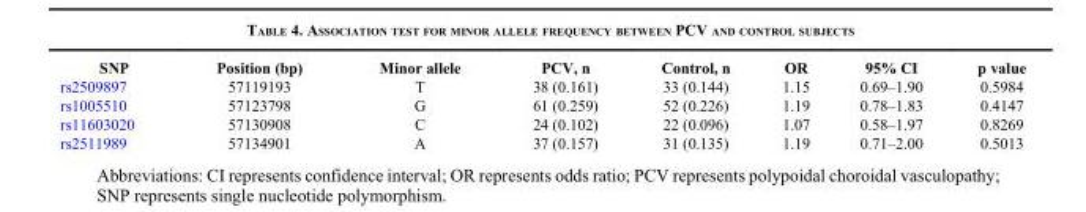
<table><thead><tr><td>SNP</td><td>Position (bp)</td><td>Minor allele</td><td>PCV, n</td><td>Control, n</td><td>OR</td><td>95% CI</td><td>p value</td></tr></thead><tbody><tr><td>rs2509897</td><td>57119193</td><td>T</td><td>38 (0.161)</td><td>33 (0.144)</td><td>1.15</td><td>0.69–1.90</td><td>0.5984</td></tr><tr><td>rs1005510</td><td>57123798</td><td>G</td><td>61 (0.259)</td><td>52 (0.226)</td><td>1.19</td><td>0.78–1.83</td><td>0.4147</td></tr><tr><td>rs11603020</td><td>57130908</td><td>C</td><td>24 (0.102)</td><td>22 (0.096)</td><td>1.07</td><td>0.58–1.97</td><td>0.8269</td></tr><tr><td>rs2511989</td><td>57134901</td><td>A</td><td>37 (0.157)</td><td>31 (0.135)</td><td>1.19</td><td>0.71–2.00</td><td>0.5013</td></tr></tbody></table>